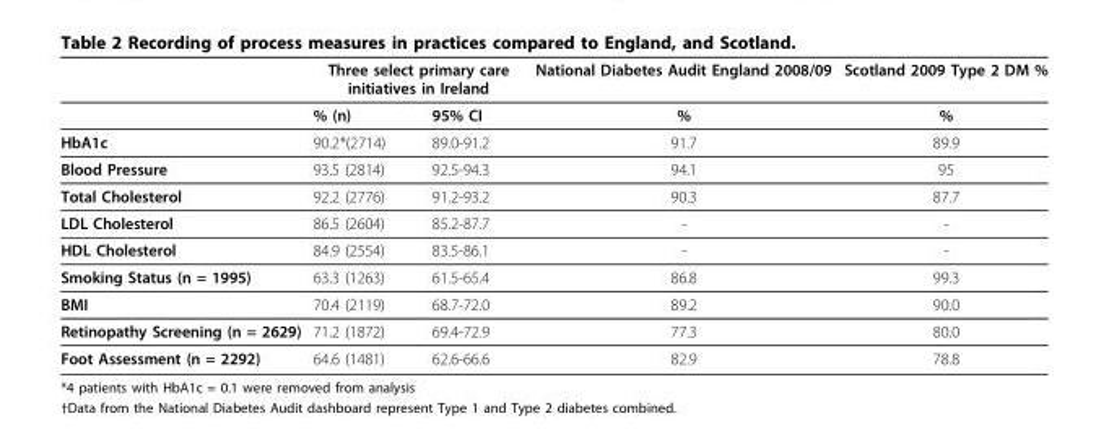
<table><thead><tr><td rowspan="2"></td><td colspan="2">Three select primary care initiatives in Ireland</td><td rowspan="2">National Diabetes Audit England 2008/09 %</td><td rowspan="2">Scotland 2009 Type 2 DM % %</td></tr><tr><td>% (n)</td><td>95% CI</td></tr></thead><tbody><tr><td>HbA1c</td><td>90.2*(2714)</td><td>89.0-91.2</td><td>91.7</td><td>89.9</td></tr><tr><td>Blood Pressure</td><td>93.5 (2814)</td><td>92.5-94.3</td><td>94.1</td><td>95</td></tr><tr><td>Total Cholesterol</td><td>92.2 (2776)</td><td>91.2-93.2</td><td>90.3</td><td>87.7</td></tr><tr><td>LDL Cholesterol</td><td>86.5 (2604)</td><td>85.2-87.7</td><td>-</td><td>-</td></tr><tr><td>HDL Cholesterol</td><td>84.9 (2554)</td><td>83.5-86.1</td><td>-</td><td>-</td></tr><tr><td>Smoking Status (n = 1995)</td><td>63.3 (1263)</td><td>61.5-65.4</td><td>86.8</td><td>99.3</td></tr><tr><td>BMI</td><td>70.4 (2119)</td><td>68.7-72.0</td><td>89.2</td><td>90.0</td></tr><tr><td>Retinopathy Screening (n = 2629)</td><td>71.2 (1872)</td><td>69.4-72.9</td><td>77.3</td><td>80.0</td></tr><tr><td>Foot Assessment (n = 2292)</td><td>64.6 (1481)</td><td>62.6-66.6</td><td>82.9</td><td>78.8</td></tr></tbody></table>